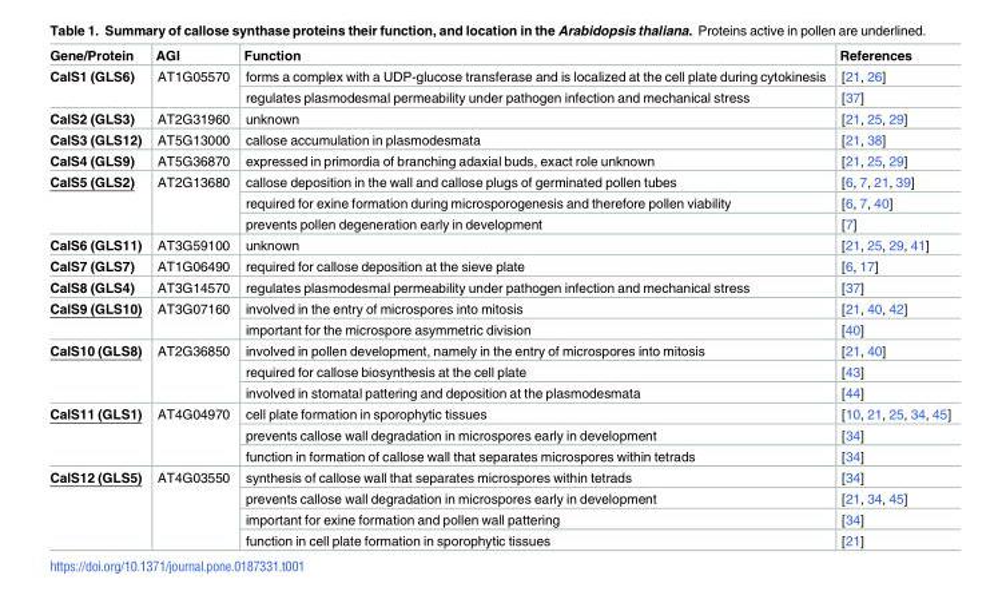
<table><thead><tr><td>Gene/Protein</td><td>AGI</td><td>Function</td><td>References</td></tr></thead><tbody><tr><td rowspan="2">CalS1 (GLS6)</td><td rowspan="2">AT1G05570</td><td>forms a complex with a UDP-glucose transferase and is localized at the cell plate during cytokinesis</td><td>[21, 26]</td></tr><tr><td>regulates plasmodesmal permeability under pathogen infection and mechanical stress</td><td>[37]</td></tr><tr><td>CalS2 (GLS3)</td><td>AT2G31960</td><td>unknown</td><td>[21, 25, 29]</td></tr><tr><td>CalS3 (GLS12)</td><td>AT5G13000</td><td>callose accumulation in plasmodesmata</td><td>[21, 38]</td></tr><tr><td>CalS4 (GLS9)</td><td>AT5G36870</td><td>expressed in primordia of branching adaxial buds, exact role unknown</td><td>[21, 25, 29]</td></tr><tr><td rowspan="3">CalS5 (GLS2)</td><td rowspan="3">AT2G13680</td><td>callose deposition in the wall and callose plugs of germinated pollen tubes</td><td>[6, 7, 21, 39]</td></tr><tr><td>required for exine formation during microsporogenesis and therefore pollen viability</td><td>[6, 7, 40]</td></tr><tr><td>prevents pollen degeneration early in development</td><td>[7]</td></tr><tr><td>CalS6 (GLS11)</td><td>AT3G59100</td><td>unknown</td><td>[21, 25, 29, 41]</td></tr><tr><td>CalS7 (GLS7)</td><td>AT1G06490</td><td>required for callose deposition at the sieve plate</td><td>[6, 17]</td></tr><tr><td>CalS8 (GLS4)</td><td>AT3G14570</td><td>regulates plasmodesmal permeability under pathogen infection and mechanical stress</td><td>[37]</td></tr><tr><td rowspan="2">CalS9 (GLS10)</td><td rowspan="2">AT3G07160</td><td>involved in the entry of microspores into mitosis</td><td>[21, 40, 42]</td></tr><tr><td>important for the microspore asymmetric division</td><td>[40]</td></tr><tr><td rowspan="3">CalS10 (GLS8)</td><td rowspan="3">AT2G36850</td><td>involved in pollen development, namely in the entry of microspores into mitosis</td><td>[21, 40]</td></tr><tr><td>required for callose biosynthesis at the cell plate</td><td>[43]</td></tr><tr><td>involved in stomatal pattering and deposition at the plasmodesmata</td><td>[44]</td></tr><tr><td rowspan="3">CalS11 (GLS1)</td><td rowspan="3">AT4G04970</td><td>cell plate formation in sporophytic tissues</td><td>[10, 21, 25, 34, 45]</td></tr><tr><td>prevents callose wall degradation in microspores early in development</td><td>[34]</td></tr><tr><td>function in formation of callose wall that separates microspores within tetrads</td><td>[34]</td></tr><tr><td rowspan="4">CalS12 (GLS5)</td><td rowspan="4">AT4G03550</td><td>synthesis of callose wall that separates microspores within tetrads</td><td>[34]</td></tr><tr><td>prevents callose wall degradation in microspores early in development</td><td>[21, 34, 45]</td></tr><tr><td>important for exine formation and pollen wall pattering</td><td>[34]</td></tr><tr><td>function in cell plate formation in sporophytic tissues</td><td>[21]</td></tr></tbody></table>